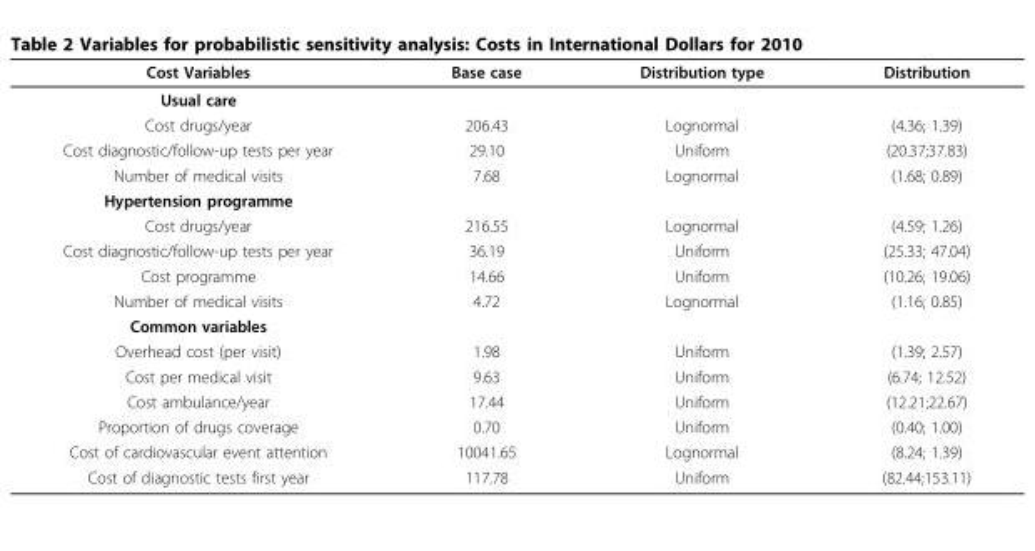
<table><thead><tr><td>Cost Variables</td><td>Base case</td><td>Distribution type</td><td>Distribution</td></tr></thead><tbody><tr><td colspan="4">Usual care</td></tr><tr><td>Cost drugs/year</td><td>206.43</td><td>Lognormal</td><td>(4.36; 1.39)</td></tr><tr><td>Cost diagnostic/follow-up tests per year</td><td>29.10</td><td>Uniform</td><td>(20.37;37.83)</td></tr><tr><td>Number of medical visits</td><td>7.68</td><td>Lognormal</td><td>(1.68; 0.89)</td></tr><tr><td colspan="4">Hypertension programme</td></tr><tr><td>Cost drugs/year</td><td>216.55</td><td>Lognormal</td><td>(4.59; 1.26)</td></tr><tr><td>Cost diagnostic/follow-up tests per year</td><td>36.19</td><td>Uniform</td><td>(25.33; 47.04)</td></tr><tr><td>Cost programme</td><td>14.66</td><td>Uniform</td><td>(10.26; 19.06)</td></tr><tr><td>Number of medical visits</td><td>4.72</td><td>Lognormal</td><td>(1.16; 0.85)</td></tr><tr><td colspan="4">Common variables</td></tr><tr><td>Overhead cost (per visit)</td><td>1.98</td><td>Uniform</td><td>(1.39; 2.57)</td></tr><tr><td>Cost per medical visit</td><td>9.63</td><td>Uniform</td><td>(6.74; 12.52)</td></tr><tr><td>Cost ambulance/year</td><td>17.44</td><td>Uniform</td><td>(12.21;22.67)</td></tr><tr><td>Proportion of drugs coverage</td><td>0.70</td><td>Uniform</td><td>(0.40; 1.00)</td></tr><tr><td>Cost of cardiovascular event attention</td><td>10041.65</td><td>Lognormal</td><td>(8.24; 1.39)</td></tr><tr><td>Cost of diagnostic tests first year</td><td>117.78</td><td>Uniform</td><td>(82.44;153.11)</td></tr></tbody></table>